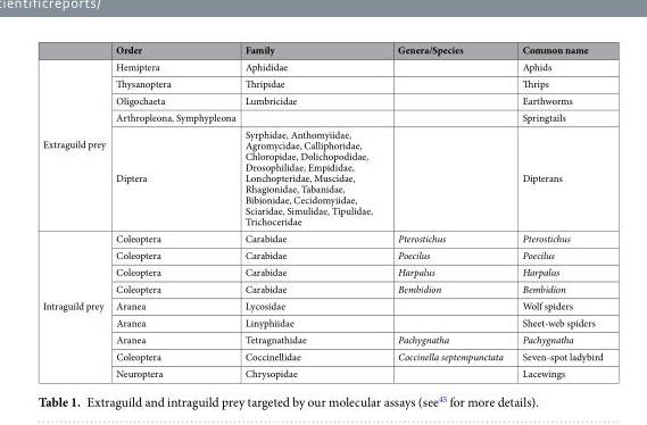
<table><thead><tr><td></td><td>Order</td><td>Family</td><td>Genera/Species</td><td>Common name</td></tr></thead><tbody><tr><td rowspan="5">Extraguild prey</td><td>Hemiptera</td><td>Aphididae</td><td></td><td>Aphids</td></tr><tr><td>Thysanoptera</td><td>Thripidae</td><td></td><td>Thrips</td></tr><tr><td>Oligochaeta</td><td>Lumbricidae</td><td></td><td>Earthworms</td></tr><tr><td>Arthropleona, Symphypleona</td><td></td><td></td><td>Springtails</td></tr><tr><td>Diptera</td><td>Syrphidae, Anthomyiidae, Agromycidae, Calliphoridae, Chloropidae, Dolichopodidae, Drosophilidae, Empididae, Lonchopteridae, Muscidae, Rhagionidae, Tabanidae, Bibionidae, Cecidomyiidae, Sciaridae, Simulidae, Tipulidae, Trichoceridae</td><td></td><td>Dipterans</td></tr><tr><td rowspan="9">Intraguild prey</td><td>Coleoptera</td><td>Carabidae</td><td>Pterostichus</td><td>Pterostichus</td></tr><tr><td>Coleoptera</td><td>Carabidae</td><td>Poecilus</td><td>Poecilus</td></tr><tr><td>Coleoptera</td><td>Carabidae</td><td>Harpalus</td><td>Harpalus</td></tr><tr><td>Coleoptera</td><td>Carabidae</td><td>Bembidion</td><td>Bembidion</td></tr><tr><td>Aranea</td><td>Lycosidae</td><td></td><td>Wolf spiders</td></tr><tr><td>Aranea</td><td>Linyphiidae</td><td></td><td>Sheet-web spiders</td></tr><tr><td>Aranea</td><td>Tetragnathidae</td><td>Pachygnatha</td><td>Pachygnatha</td></tr><tr><td>Coleoptera</td><td>Coccinellidae</td><td>Coccinella septempunctata</td><td>Seven-spot ladybird</td></tr><tr><td>Neuroptera</td><td>Chrysopidae</td><td></td><td>Lacewings</td></tr></tbody></table>